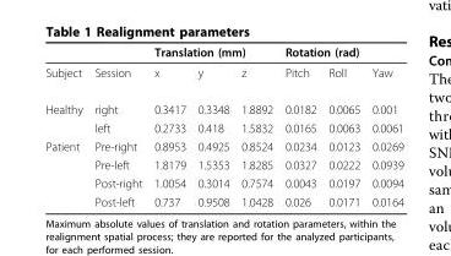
<table><thead><tr><td rowspan="2">Subject</td><td rowspan="2">Session</td><td colspan="3">Translation (mm)</td><td colspan="3">Rotation (rad)</td></tr><tr><td>x</td><td>y</td><td>z</td><td>Pitch</td><td>Roll</td><td>Yaw</td></tr></thead><tbody><tr><td rowspan="2">Healthy</td><td>right</td><td>0.3417</td><td>0.3348</td><td>1.8892</td><td>0.0182</td><td>0.0065</td><td>0.001</td></tr><tr><td>left</td><td>0.2733</td><td>0.418</td><td>1.5832</td><td>0.0165</td><td>0.0063</td><td>0.0061</td></tr><tr><td rowspan="4">Patient</td><td>Pre-right</td><td>0.8953</td><td>0.4925</td><td>0.8524</td><td>0.0234</td><td>0.0123</td><td>0.0269</td></tr><tr><td>Pre-left</td><td>1.8179</td><td>1.5353</td><td>1.8285</td><td>0.0327</td><td>0.0222</td><td>0.0939</td></tr><tr><td>Post-right</td><td>1.0054</td><td>0.3014</td><td>0.7574</td><td>0.0043</td><td>0.0197</td><td>0.0094</td></tr><tr><td>Post-left</td><td>0.737</td><td>0.9508</td><td>1.0428</td><td>0.026</td><td>0.0171</td><td>0.0164</td></tr></tbody></table>